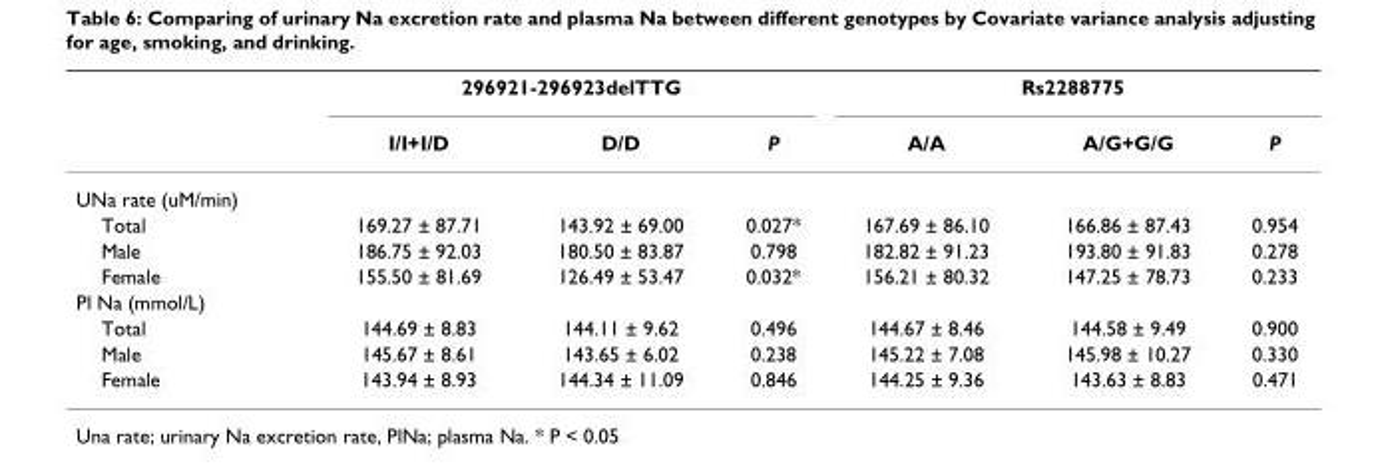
<table><thead><tr><td rowspan="2"></td><td colspan="3">296921-296923delTTG</td><td colspan="3">Rs2288775</td></tr><tr><td>I/I+I/D</td><td>D/D</td><td>P</td><td>A/A</td><td>A/G+G/G</td><td>P</td></tr></thead><tbody><tr><td colspan="7">UNa rate (uM/min)</td></tr><tr><td>Total</td><td>169.27 ± 87.71</td><td>143.92 ± 69.00</td><td>0.027*</td><td>167.69 ± 86.10</td><td>166.86 ± 87.43</td><td>0.954</td></tr><tr><td>Male</td><td>186.75 ± 92.03</td><td>180.50 ± 83.87</td><td>0.798</td><td>182.82 ± 91.23</td><td>193.80 ± 91.83</td><td>0.278</td></tr><tr><td>Female</td><td>155.50 ± 81.69</td><td>126.49 ± 53.47</td><td>0.032*</td><td>156.21 ± 80.32</td><td>147.25 ± 78.73</td><td>0.233</td></tr><tr><td colspan="7">Pl Na (mmol/L)</td></tr><tr><td>Total</td><td>144.69 ± 8.83</td><td>144.11 ± 9.62</td><td>0.496</td><td>144.67 ± 8.46</td><td>144.58 ± 9.49</td><td>0.900</td></tr><tr><td>Male</td><td>145.67 ± 8.61</td><td>143.65 ± 6.02</td><td>0.238</td><td>145.22 ± 7.08</td><td>145.98 ± 10.27</td><td>0.330</td></tr><tr><td>Female</td><td>143.94 ± 8.93</td><td>144.34 ± 11.09</td><td>0.846</td><td>144.25 ± 9.36</td><td>143.63 ± 8.83</td><td>0.471</td></tr></tbody></table>